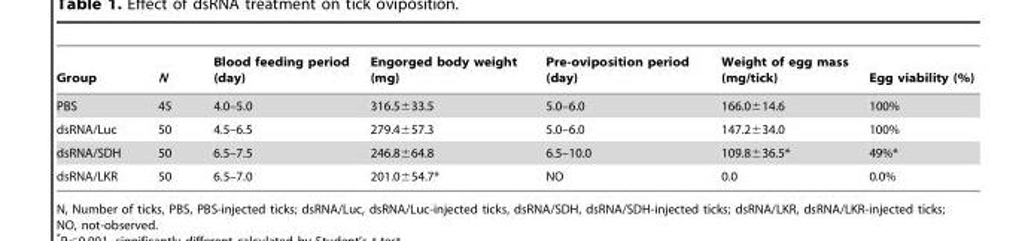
<table><thead><tr><td>Group</td><td>N</td><td>Blood feeding period (day)</td><td>Engorged body weight (mg)</td><td>Pre-oviposition period (day)</td><td>Weight of egg mass (mg/tick)</td><td>Egg viability (%)</td></tr></thead><tbody><tr><td>PBS</td><td>45</td><td>4.0–5.0</td><td>316.5±33.5</td><td>5.0–6.0</td><td>166.0±14.6</td><td>100%</td></tr><tr><td>dsRNA/Luc</td><td>50</td><td>4.5–6.5</td><td>279.4±57.3</td><td>5.0–6.0</td><td>147.2±34.0</td><td>100%</td></tr><tr><td>dsRNA/SDH</td><td>50</td><td>6.5–7.5</td><td>246.8±64.8</td><td>6.5–10.0</td><td>109.8±36.5*</td><td>49%*</td></tr><tr><td>dsRNA/LKR</td><td>50</td><td>6.5–7.0</td><td>201.0±54.7*</td><td>NO</td><td>0.0</td><td>0.0%</td></tr></tbody></table>